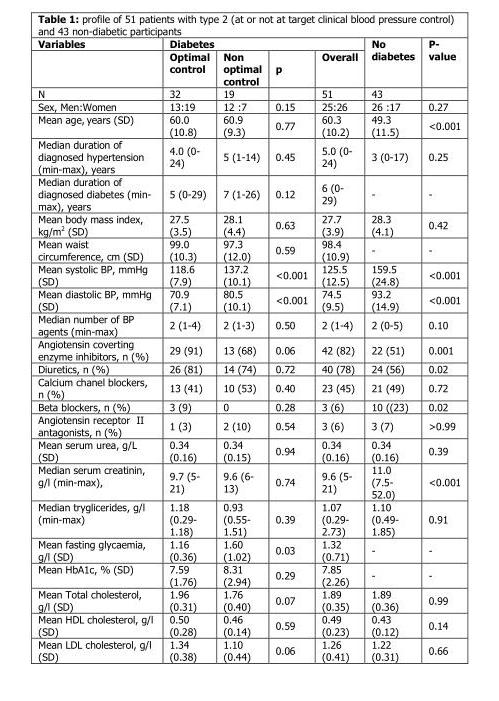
<table><thead><tr><td rowspan="2">Variables</td><td colspan="4">Diabetes</td><td rowspan="2">No diabetes</td><td rowspan="2">P- value</td></tr><tr><td>Optimal control</td><td>Non optimal control</td><td>p</td><td>Overall</td></tr></thead><tbody><tr><td>N</td><td>32</td><td>19</td><td></td><td>51</td><td>43</td><td></td></tr><tr><td>Sex, Men:Women</td><td>13:19</td><td>12 :7</td><td>0.15</td><td>25:26</td><td>26 :17</td><td>0.27</td></tr><tr><td>Mean age, years (SD)</td><td>60.0 (10.8)</td><td>60.9 (9.3)</td><td>0.77</td><td>60.3 (10.2)</td><td>49.3 (11.5)</td><td>&lt;0.001</td></tr><tr><td>Median duration of diagnosed hypertension (min-max), years</td><td>4.0 (0- 24)</td><td>5 (1-14)</td><td>0.45</td><td>5.0 (0- 24)</td><td>3 (0-17)</td><td>0.25</td></tr><tr><td>Median duration of diagnosed diabetes (min- max), years</td><td>5 (0-29)</td><td>7 (1-26)</td><td>0.12</td><td>6 (0- 29)</td><td>-</td><td>-</td></tr><tr><td>Mean body mass index, kg/m<sup>2</sup> (SD)</td><td>27.5 (3.5)</td><td>28.1 (4.4)</td><td>0.63</td><td>27.7 (3.9)</td><td>28.3 (4.1)</td><td>0.42</td></tr><tr><td>Mean waist circumference, cm (SD)</td><td>99.0 (10.3)</td><td>97.3 (12.0)</td><td>0.59</td><td>98.4 (10.9)</td><td>-</td><td>-</td></tr><tr><td>Mean systolic BP, mmHg (SD)</td><td>118.6 (7.9)</td><td>137.2 (10.1)</td><td>&lt;0.001</td><td>125.5 (12.5)</td><td>159.5 (24.8)</td><td>&lt;0.001</td></tr><tr><td>Mean diastolic BP, mmHg (SD)</td><td>70.9 (7.1)</td><td>80.5 (10.1)</td><td>&lt;0.001</td><td>74.5 (9.5)</td><td>93.2 (14.9)</td><td>&lt;0.001</td></tr><tr><td>Median number of BP agents (min-max)</td><td>2 (1-4)</td><td>2 (1-3)</td><td>0.50</td><td>2 (1-4)</td><td>2 (0-5)</td><td>0.10</td></tr><tr><td>Angiotensin coverting enzyme inhibitors, n (%)</td><td>29 (91)</td><td>13 (68)</td><td>0.06</td><td>42 (82)</td><td>22 (51)</td><td>0.001</td></tr><tr><td>Diuretics, n (%)</td><td>26 (81)</td><td>14 (74)</td><td>0.72</td><td>40 (78)</td><td>24 (56)</td><td>0.02</td></tr><tr><td>Calcium chanel blockers, n (%)</td><td>13 (41)</td><td>10 (53)</td><td>0.40</td><td>23 (45)</td><td>21 (49)</td><td>0.72</td></tr><tr><td>Beta blockers, n (%)</td><td>3 (9)</td><td>0</td><td>0.28</td><td>3 (6)</td><td>10 ((23)</td><td>0.02</td></tr><tr><td>Angiotensin receptor II antagonists, n (%)</td><td>1 (3)</td><td>2 (10)</td><td>0.54</td><td>3 (6)</td><td>3 (7)</td><td>&gt;0.99</td></tr><tr><td>Mean serum urea, g/L (SD)</td><td>0.34 (0.16)</td><td>0.34 (0.15)</td><td>0.94</td><td>0.34 (0.16)</td><td>0.34 (0.16)</td><td>0.39</td></tr><tr><td>Median serum creatinin, g/l (min-max),</td><td>9.7 (5- 21)</td><td>9.6 (6- 13)</td><td>0.74</td><td>9.6 (5- 21)</td><td>11.0 (7.5- 52.0)</td><td>&lt;0.001</td></tr><tr><td>Median tryglicerides, g/l (min-max)</td><td>1.18 (0.29- 1.18)</td><td>0.93 (0.55- 1.51)</td><td>0.39</td><td>1.07 (0.29- 2.73)</td><td>1.10 (0.49- 1.85)</td><td>0.91</td></tr><tr><td>Mean fasting glycaemia, g/l (SD)</td><td>1.16 (0.36)</td><td>1.60 (1.02)</td><td>0.03</td><td>1.32 (0.71)</td><td>-</td><td>-</td></tr><tr><td>Mean HbA1c, % (SD)</td><td>7.59 (1.76)</td><td>8.31 (2.94)</td><td>0.29</td><td>7.85 (2.26)</td><td>-</td><td>-</td></tr><tr><td>Mean Total cholesterol, g/l (SD)</td><td>1.96 (0.31)</td><td>1.76 (0.40)</td><td>0.07</td><td>1.89 (0.35)</td><td>1.89 (0.36)</td><td>0.99</td></tr><tr><td>Mean HDL cholesterol, g/l (SD)</td><td>0.50 (0.28)</td><td>0.46 (0.14)</td><td>0.59</td><td>0.49 (0.23)</td><td>0.43 (0.12)</td><td>0.14</td></tr><tr><td>Mean LDL cholesterol, g/l (SD)</td><td>1.34 (0.38)</td><td>1.10 (0.44)</td><td>0.06</td><td>1.26 (0.41)</td><td>1.22 (0.31)</td><td>0.66</td></tr></tbody></table>